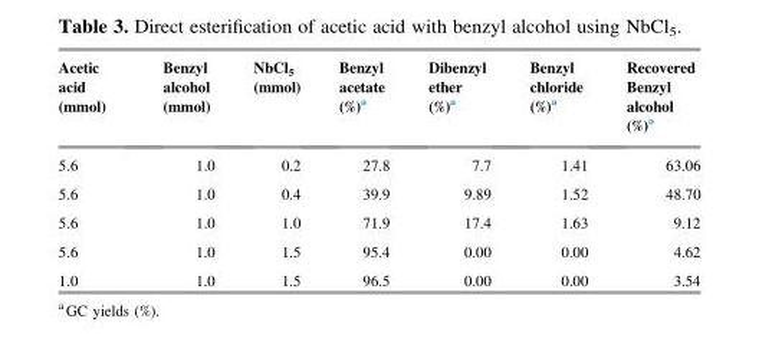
<table><thead><tr><td>Acetic acid (mmol)</td><td>Benzyl alcohol (mmol)</td><td>NbCl<sub>5</sub> (mmol)</td><td>Benzyl acetate (%)<sup>a</sup></td><td>Dibenzyl ether (%)<sup>a</sup></td><td>Benzyl chloride (%)<sup>a</sup></td><td>Recovered Benzyl alcohol (%)<sup>a</sup></td></tr></thead><tbody><tr><td>5.6</td><td>1.0</td><td>0.2</td><td>27.8</td><td>7.7</td><td>1.41</td><td>63.06</td></tr><tr><td>5.6</td><td>1.0</td><td>0.4</td><td>39.9</td><td>9.89</td><td>1.52</td><td>48.70</td></tr><tr><td>5.6</td><td>1.0</td><td>1.0</td><td>71.9</td><td>17.4</td><td>1.63</td><td>9.12</td></tr><tr><td>5.6</td><td>1.0</td><td>1.5</td><td>95.4</td><td>0.00</td><td>0.00</td><td>4.62</td></tr><tr><td>1.0</td><td>1.0</td><td>1.5</td><td>96.5</td><td>0.00</td><td>0.00</td><td>3.54</td></tr></tbody></table>